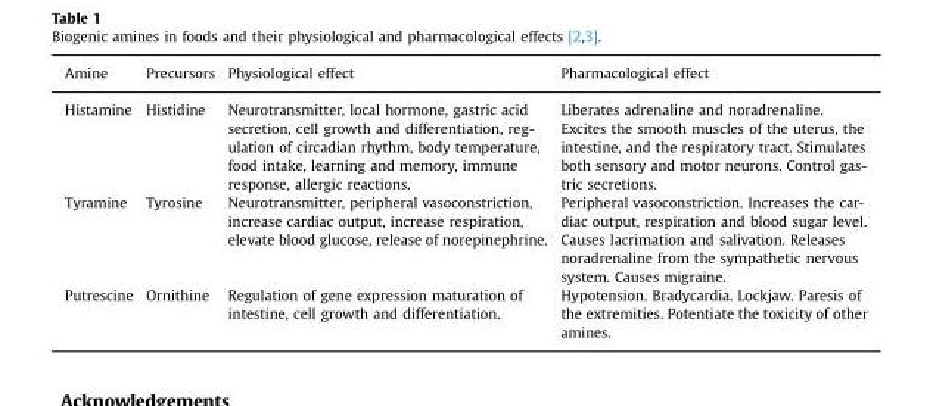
<table><thead><tr><td>Amine</td><td>Precursors</td><td>Physiological effect</td><td>Pharmacological effect</td></tr></thead><tbody><tr><td>Histamine</td><td>Histidine</td><td>Neurotransmitter, local hormone, gastric acid secretion, cell growth and differentiation, reg- ulation of circadian rhythm, body temperature, food intake, learning and memory, immune response, allergic reactions.</td><td>Liberates adrenaline and noradrenaline. Excites the smooth muscles of the uterus, the intestine, and the respiratory tract. Stimulates both sensory and motor neurons. Control gas- tric secretions.</td></tr><tr><td>Tyramine</td><td>Tyrosine</td><td>Neurotransmitter, peripheral vasoconstriction, increase cardiac output, increase respiration, elevate blood glucose, release of norepinephrine.</td><td>Peripheral vasoconstriction. Increases the car- diac output, respiration and blood sugar level. Causes lacrimation and salivation. Releases noradrenaline from the sympathetic nervous system. Causes migraine.</td></tr><tr><td>Putrescine</td><td>Ornithine</td><td>Regulation of gene expression maturation of intestine, cell growth and differentiation.</td><td>Hypotension. Bradycardia. Lockjaw. Paresis of the extremities. Potentiate the toxicity of other amines.</td></tr></tbody></table>